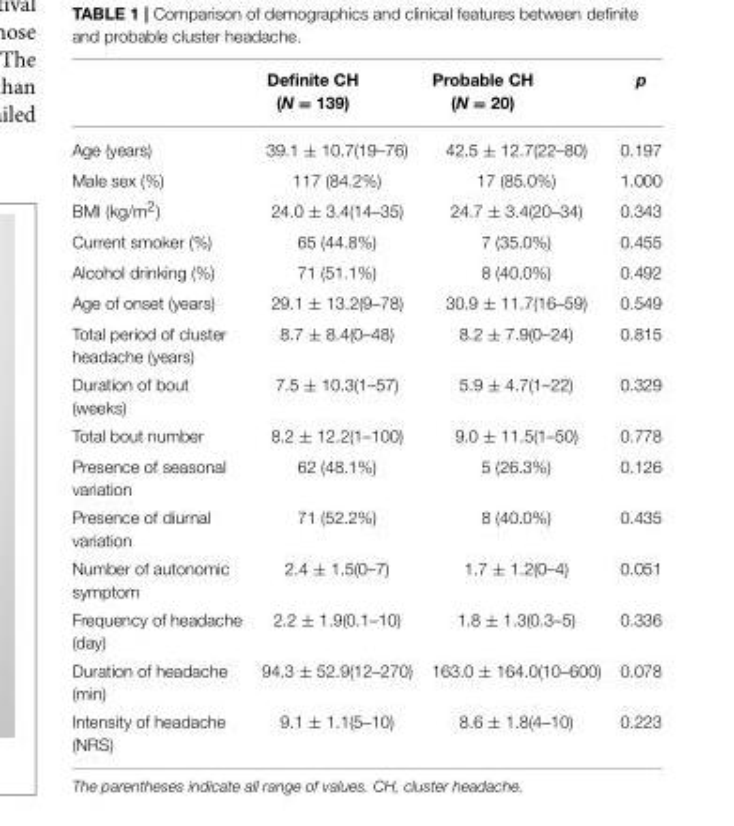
<table><thead><tr><td></td><td>Definite CH (N = 139)</td><td>Probable CH (N = 20)</td><td>p</td></tr></thead><tbody><tr><td>Age (years)</td><td>39.1 ± 10.7(19–76)</td><td>42.5 ± 12.7(22–80)</td><td>0.197</td></tr><tr><td>Male sex (%)</td><td>117 (84.2%)</td><td>17 (85.0%)</td><td>1.000</td></tr><tr><td>BMI (kg/m<sup>2</sup>)</td><td>24.0 ± 3.4(14–35)</td><td>24.7 ± 3.4(20–34)</td><td>0.343</td></tr><tr><td>Current smoker (%)</td><td>65 (44.8%)</td><td>7 (35.0%)</td><td>0.455</td></tr><tr><td>Alcohol drinking (%)</td><td>71 (51.1%)</td><td>8 (40.0%)</td><td>0.492</td></tr><tr><td>Age of onset (years)</td><td>29.1 ± 13.2(9–78)</td><td>30.9 ± 11.7(16–59)</td><td>0.549</td></tr><tr><td>Total period of cluster headache (years)</td><td>8.7 ± 8.4(0–48)</td><td>8.2 ± 7.9(0–24)</td><td>0.815</td></tr><tr><td>Duration of bout (weeks)</td><td>7.5 ± 10.3(1–57)</td><td>5.9 ± 4.7(1–22)</td><td>0.329</td></tr><tr><td>Total bout number</td><td>8.2 ± 12.2(1–100)</td><td>9.0 ± 11.5(1–50)</td><td>0.778</td></tr><tr><td>Presence of seasonal variation</td><td>62 (48.1%)</td><td>5 (26.3%)</td><td>0.126</td></tr><tr><td>Presence of diurnal variation</td><td>71 (52.2%)</td><td>8 (40.0%)</td><td>0.435</td></tr><tr><td>Number of autonomic symptom</td><td>2.4 ± 1.5(0–7)</td><td>1.7 ± 1.2(0–4)</td><td>0.051</td></tr><tr><td>Frequency of headache (day)</td><td>2.2 ± 1.9(0.1–10)</td><td>1.8 ± 1.3(0.3–5)</td><td>0.336</td></tr><tr><td>Duration of headache (min)</td><td>94.3 ± 52.9(12–270)</td><td>163.0 ± 164.0(10–600)</td><td>0.078</td></tr><tr><td>Intensity of headache (NRS)</td><td>9.1 ± 1.1(5–10)</td><td>8.6 ± 1.8(4–10)</td><td>0.223</td></tr></tbody></table>